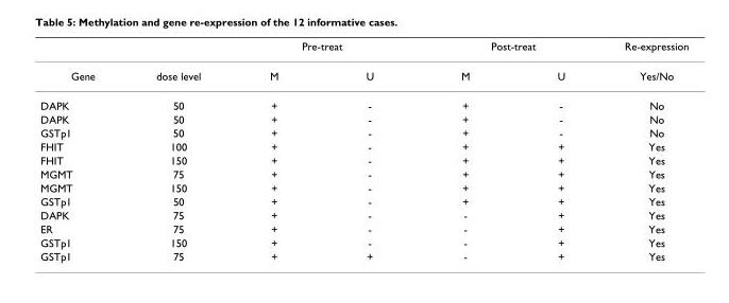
<table><thead><tr><td rowspan="2">Gene</td><td rowspan="2">dose level</td><td colspan="2">Pre-treat</td><td colspan="2">Post-treat</td><td rowspan="2">Re-expression Yes/No</td></tr><tr><td>M</td><td>U</td><td>M</td><td>U</td></tr></thead><tbody><tr><td>DAPK</td><td>50</td><td>+</td><td>-</td><td>+</td><td>-</td><td>No</td></tr><tr><td>DAPK</td><td>50</td><td>+</td><td>-</td><td>+</td><td>-</td><td>No</td></tr><tr><td>GSTp1</td><td>50</td><td>+</td><td>-</td><td>+</td><td>-</td><td>No</td></tr><tr><td>FHIT</td><td>100</td><td>+</td><td>-</td><td>+</td><td>+</td><td>Yes</td></tr><tr><td>FHIT</td><td>150</td><td>+</td><td>-</td><td>+</td><td>+</td><td>Yes</td></tr><tr><td>MGMT</td><td>75</td><td>+</td><td>-</td><td>+</td><td>+</td><td>Yes</td></tr><tr><td>MGMT</td><td>150</td><td>+</td><td>-</td><td>+</td><td>+</td><td>Yes</td></tr><tr><td>GSTp1</td><td>50</td><td>+</td><td>-</td><td>+</td><td>+</td><td>Yes</td></tr><tr><td>DAPK</td><td>75</td><td>+</td><td>-</td><td>-</td><td>+</td><td>Yes</td></tr><tr><td>ER</td><td>75</td><td>+</td><td>-</td><td>-</td><td>+</td><td>Yes</td></tr><tr><td>GSTp1</td><td>150</td><td>+</td><td>-</td><td>-</td><td>+</td><td>Yes</td></tr><tr><td>GSTp1</td><td>75</td><td>+</td><td>+</td><td>-</td><td>+</td><td>Yes</td></tr></tbody></table>